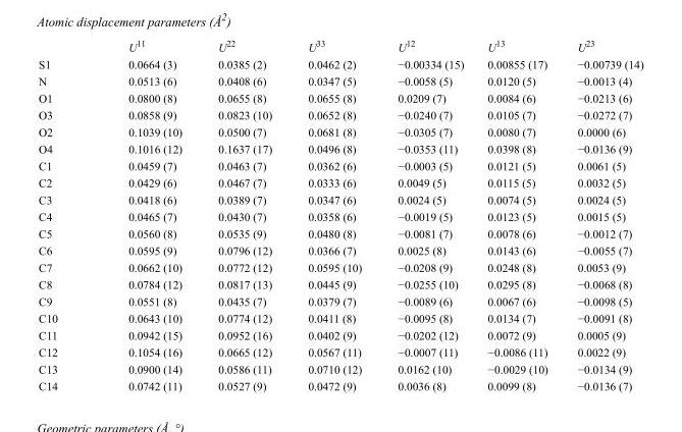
<table><thead><tr><td></td><td>U<sup>11</sup></td><td>U<sup>22</sup></td><td>U<sup>33</sup></td><td>U<sup>12</sup></td><td>U<sup>13</sup></td><td>U<sup>23</sup></td></tr></thead><tbody><tr><td>S1</td><td>0.0664 (3)</td><td>0.0385 (2)</td><td>0.0462 (2)</td><td>−0.00334 (15)</td><td>0.00855 (17)</td><td>−0.00739 (14)</td></tr><tr><td>N</td><td>0.0513 (6)</td><td>0.0408 (6)</td><td>0.0347 (5)</td><td>−0.0058 (5)</td><td>0.0120 (5)</td><td>−0.0013 (4)</td></tr><tr><td>O1</td><td>0.0800 (8)</td><td>0.0655 (8)</td><td>0.0655 (8)</td><td>0.0209 (7)</td><td>0.0084 (6)</td><td>−0.0213 (6)</td></tr><tr><td>O3</td><td>0.0858 (9)</td><td>0.0823 (10)</td><td>0.0652 (8)</td><td>−0.0240 (7)</td><td>0.0105 (7)</td><td>−0.0272 (7)</td></tr><tr><td>O2</td><td>0.1039 (10)</td><td>0.0500 (7)</td><td>0.0681 (8)</td><td>−0.0305 (7)</td><td>0.0080 (7)</td><td>0.0000 (6)</td></tr><tr><td>O4</td><td>0.1016 (12)</td><td>0.1637 (17)</td><td>0.0496 (8)</td><td>−0.0353 (11)</td><td>0.0398 (8)</td><td>−0.0136 (9)</td></tr><tr><td>C1</td><td>0.0459 (7)</td><td>0.0463 (7)</td><td>0.0362 (6)</td><td>−0.0003 (5)</td><td>0.0121 (5)</td><td>0.0061 (5)</td></tr><tr><td>C2</td><td>0.0429 (6)</td><td>0.0467 (7)</td><td>0.0333 (6)</td><td>0.0049 (5)</td><td>0.0115 (5)</td><td>0.0032 (5)</td></tr><tr><td>C3</td><td>0.0418 (6)</td><td>0.0389 (7)</td><td>0.0347 (6)</td><td>0.0024 (5)</td><td>0.0074 (5)</td><td>0.0024 (5)</td></tr><tr><td>C4</td><td>0.0465 (7)</td><td>0.0430 (7)</td><td>0.0358 (6)</td><td>−0.0019 (5)</td><td>0.0123 (5)</td><td>0.0015 (5)</td></tr><tr><td>C5</td><td>0.0560 (8)</td><td>0.0535 (9)</td><td>0.0480 (8)</td><td>−0.0081 (7)</td><td>0.0078 (6)</td><td>−0.0012 (7)</td></tr><tr><td>C6</td><td>0.0595 (9)</td><td>0.0796 (12)</td><td>0.0366 (7)</td><td>0.0025 (8)</td><td>0.0143 (6)</td><td>−0.0055 (7)</td></tr><tr><td>C7</td><td>0.0662 (10)</td><td>0.0772 (12)</td><td>0.0595 (10)</td><td>−0.0208 (9)</td><td>0.0248 (8)</td><td>0.0053 (9)</td></tr><tr><td>C8</td><td>0.0784 (12)</td><td>0.0817 (13)</td><td>0.0445 (9)</td><td>−0.0255 (10)</td><td>0.0295 (8)</td><td>−0.0068 (8)</td></tr><tr><td>C9</td><td>0.0551 (8)</td><td>0.0435 (7)</td><td>0.0379 (7)</td><td>−0.0089 (6)</td><td>0.0067 (6)</td><td>−0.0098 (5)</td></tr><tr><td>C10</td><td>0.0643 (10)</td><td>0.0774 (12)</td><td>0.0411 (8)</td><td>−0.0095 (8)</td><td>0.0134 (7)</td><td>−0.0091 (8)</td></tr><tr><td>C11</td><td>0.0942 (15)</td><td>0.0952 (16)</td><td>0.0402 (9)</td><td>−0.0202 (12)</td><td>0.0072 (9)</td><td>0.0005 (9)</td></tr><tr><td>C12</td><td>0.1054 (16)</td><td>0.0665 (12)</td><td>0.0567 (11)</td><td>−0.0007 (11)</td><td>−0.0086 (11)</td><td>0.0022 (9)</td></tr><tr><td>C13</td><td>0.0900 (14)</td><td>0.0586 (11)</td><td>0.0710 (12)</td><td>0.0162 (10)</td><td>−0.0029 (10)</td><td>−0.0134 (9)</td></tr><tr><td>C14</td><td>0.0742 (11)</td><td>0.0527 (9)</td><td>0.0472 (9)</td><td>0.0036 (8)</td><td>0.0099 (8)</td><td>−0.0136 (7)</td></tr></tbody></table>